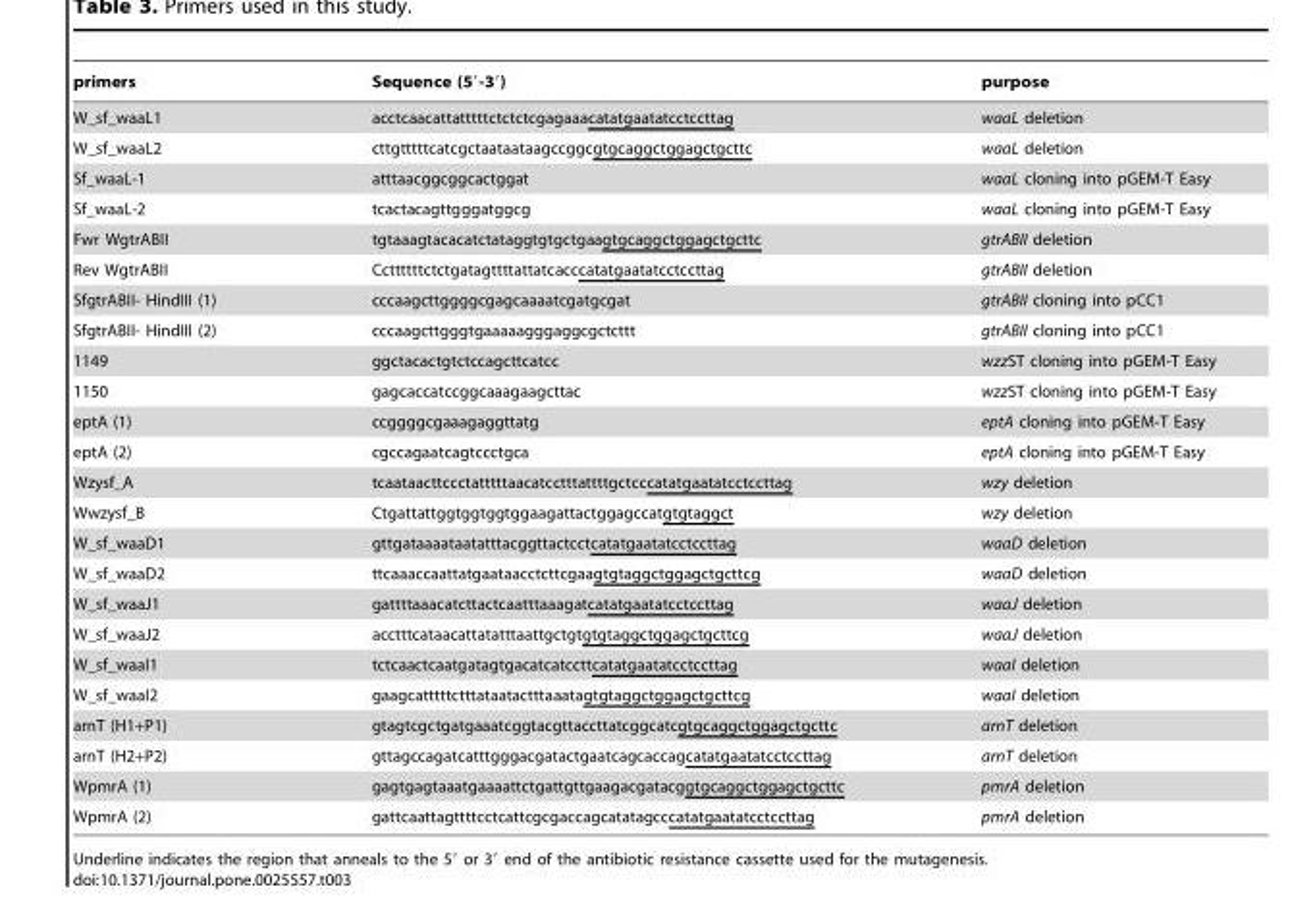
<table><thead><tr><td>primers</td><td>Sequence (5′-3′)</td><td>purpose</td></tr></thead><tbody><tr><td>W_sf_waaL1</td><td>acctcaacattatttttctctctcgagaaacatatgaatatcctccttag</td><td>waaL deletion</td></tr><tr><td>W_sf_waaL2</td><td>cttgtttttcatcgctaataataagccggcgtgcaggctggagctgcttc</td><td>waaL deletion</td></tr><tr><td>Sf_waaL-1</td><td>atttaacggcggcactggat</td><td>waaL cloning into pGEM-T Easy</td></tr><tr><td>Sf_waaL-2</td><td>tcactacagttgggatggcg</td><td>waaL cloning into pGEM-T Easy</td></tr><tr><td>Fwr WgtrABII</td><td>tgtaaagtacacatctataggtgtgctgaagtgcaggctggagctgcttc</td><td>gtrABII deletion</td></tr><tr><td>Rev WgtrABII</td><td>Ccttttttctctgatagttttattatcacccatatgaatatcctccttag</td><td>gtrABII deletion</td></tr><tr><td>SfgtrABII- HindIII (1)</td><td>cccaagcttggggcgagcaaaatcgatgcgat</td><td>gtrABII cloning into pCC1</td></tr><tr><td>SfgtrABII- HindIII (2)</td><td>cccaagcttgggtgaaaaagggaggcgctcttt</td><td>gtrABII cloning into pCC1</td></tr><tr><td>1149</td><td>ggctacactgtctccagcttcatcc</td><td>wzzST cloning into pGEM-T Easy</td></tr><tr><td>1150</td><td>gagcaccatccggcaaagaagcttac</td><td>wzzST cloning into pGEM-T Easy</td></tr><tr><td>eptA (1)</td><td>ccggggcgaaagaggttatg</td><td>eptA cloning into pGEM-T Easy</td></tr><tr><td>eptA (2)</td><td>cgccagaatcagtccctgca</td><td>eptA cloning into pGEM-T Easy</td></tr><tr><td>Wzysf_A</td><td>tcaataacttccctatttttaacatcctttattttgctcccatatgaatatcctccttag</td><td>wzy deletion</td></tr><tr><td>Wwzysf_B</td><td>Ctgattattggtggtggtggaagattactggagccatgtgtaggct</td><td>wzy deletion</td></tr><tr><td>W_sf_waaD1</td><td>gttgataaaataatatttacggttactcctcatatgaatatcctccttag</td><td>waaD deletion</td></tr><tr><td>W_sf_waaD2</td><td>ttcaaaccaattatgaataacctcttcgaagtgtaggctggagctgcttcg</td><td>waaD deletion</td></tr><tr><td>W_sf_waaJ1</td><td>gattttaaacatcttactcaatttaaagatcatatgaatatcctccttag</td><td>waaJ deletion</td></tr><tr><td>W_sf_waaJ2</td><td>acctttcataacattatatttaattgctgtgtgtaggctggagctgcttcg</td><td>waaJ deletion</td></tr><tr><td>W_sf_waaI1</td><td>tctcaactcaatgatagtgacatcatccttcatatgaatatcctccttag</td><td>waaI deletion</td></tr><tr><td>W_sf_waaI2</td><td>gaagcatttttctttataatactttaaatagtgtaggctggagctgcttcg</td><td>waaI deletion</td></tr><tr><td>arnT (H1+P1)</td><td>gtagtcgctgatgaaatcggtacgttaccttatcggcatcgtgcaggctggagctgcttc</td><td>arnT deletion</td></tr><tr><td>arnT (H2+P2)</td><td>gttagccagatcatttgggacgatactgaatcagcaccagcatatgaatatcctccttag</td><td>arnT deletion</td></tr><tr><td>WpmrA (1)</td><td>gagtgagtaaatgaaaattctgattgttgaagacgatacggtgcaggctggagctgcttc</td><td>pmrA deletion</td></tr><tr><td>WpmrA (2)</td><td>gattcaattagttttcctcattcgcgaccagcatatagcccatatgaatatcctccttag</td><td>pmrA deletion</td></tr></tbody></table>